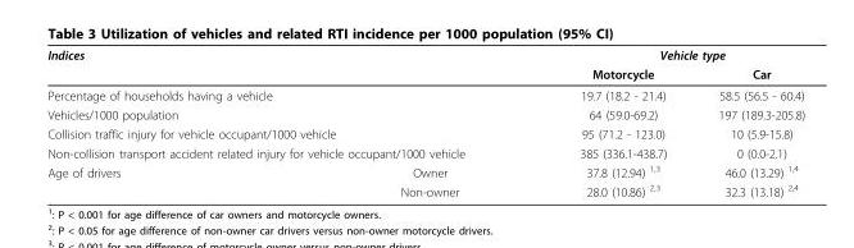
<table><thead><tr><td colspan="2">Indices</td><td colspan="2">Vehicle type</td></tr><tr><td></td><td></td><td>Motorcycle</td><td>Car</td></tr></thead><tbody><tr><td colspan="2">Percentage of households having a vehicle</td><td>19.7 (18.2 - 21.4)</td><td>58.5 (56.5 - 60.4)</td></tr><tr><td colspan="2">Vehicles/1000 population</td><td>64 (59.0-69.2)</td><td>197 (189.3-205.8)</td></tr><tr><td colspan="2">Collision traffic injury for vehicle occupant/1000 vehicle</td><td>95 (71.2 - 123.0)</td><td>10 (5.9-15.8)</td></tr><tr><td colspan="2">Non-collision transport accident related injury for vehicle occupant/1000 vehicle</td><td>385 (336.1-438.7)</td><td>0 (0.0-2.1)</td></tr><tr><td rowspan="2">Age of drivers</td><td>Owner</td><td>37.8 (12.94) <sup>1,3</sup></td><td>46.0 (13.29) <sup>1,4</sup></td></tr><tr><td>Non-owner</td><td>28.0 (10.86) <sup>2,3</sup></td><td>32.3 (13.18) <sup>2,4</sup></td></tr></tbody></table>